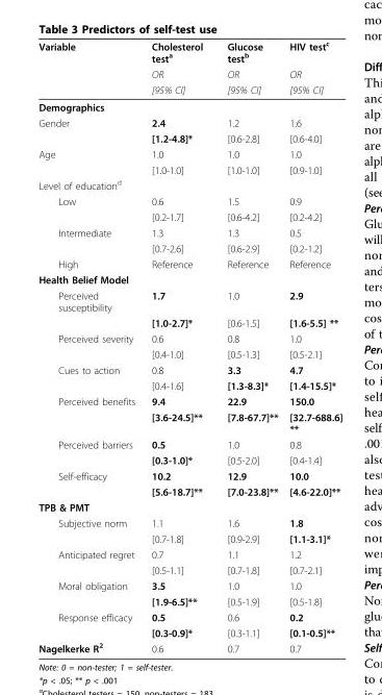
<table><thead><tr><td rowspan="3">Variable</td><td rowspan="3">Cholesterol test<sup>a</sup> OR [95% CI]</td><td rowspan="3">Glucose test<sup>b</sup> OR [95% CI]</td><td rowspan="3">HIV test<sup>c</sup> OR [95% CI]</td></tr><tr></tr><tr></tr></thead><tbody><tr><td colspan="4">Demographics</td></tr><tr><td rowspan="2">Gender</td><td>2.4</td><td>1.2</td><td>1.6</td></tr><tr><td>[1.2-4.8]*</td><td>[0.6-2.8]</td><td>[0.6-4.0]</td></tr><tr><td rowspan="2">Age</td><td>1.0</td><td>1.0</td><td>1.0</td></tr><tr><td>[1.0-1.0]</td><td>[1.0-1.0]</td><td>[0.9-1.0]</td></tr><tr><td colspan="4">Level of education<sup>d</sup></td></tr><tr><td rowspan="2">Low</td><td>0.6</td><td>1.5</td><td>0.9</td></tr><tr><td>[0.2-1.7]</td><td>[0.6-4.2]</td><td>[0.2-4.2]</td></tr><tr><td rowspan="2">Intermediate</td><td>1.3</td><td>1.3</td><td>0.5</td></tr><tr><td>[0.7-2.6]</td><td>[0.6-2.9]</td><td>[0.2-1.2]</td></tr><tr><td>High</td><td>Reference</td><td>Reference</td><td>Reference</td></tr><tr><td colspan="4">Health Belief Model</td></tr><tr><td rowspan="2">Perceived susceptibility</td><td>1.7</td><td>1.0</td><td>2.9</td></tr><tr><td>[1.0-2.7]*</td><td>[0.6-1.5]</td><td>[1.6-5.5] **</td></tr><tr><td rowspan="2">Perceived severity</td><td>0.6</td><td>0.8</td><td>1.0</td></tr><tr><td>[0.4-1.0]</td><td>[0.5-1.3]</td><td>[0.5-2.1]</td></tr><tr><td rowspan="2">Cues to action</td><td>0.8</td><td>3.3</td><td>4.7</td></tr><tr><td>[0.4-1.6]</td><td>[1.3-8.3]*</td><td>[1.4-15.5]*</td></tr><tr><td rowspan="2">Perceived benefits</td><td>9.4</td><td>22.9</td><td>150.0</td></tr><tr><td>[3.6-24.5]**</td><td>[7.8-67.7]**</td><td>[32.7-688.6] **</td></tr><tr><td rowspan="2">Perceived barriers</td><td>0.5</td><td>1.0</td><td>0.8</td></tr><tr><td>[0.3-1.0]*</td><td>[0.5-2.0]</td><td>[0.4-1.4]</td></tr><tr><td rowspan="2">Self-efficacy</td><td>10.2</td><td>12.9</td><td>10.0</td></tr><tr><td>[5.6-18.7]**</td><td>[7.0-23.8]**</td><td>[4.6-22.0]**</td></tr><tr><td colspan="4">TPB &amp; PMT</td></tr><tr><td rowspan="2">Subjective norm</td><td>1.1</td><td>1.6</td><td>1.8</td></tr><tr><td>[0.7-1.8]</td><td>[0.9-2.9]</td><td>[1.1-3.1]*</td></tr><tr><td rowspan="2">Anticipated regret</td><td>0.7</td><td>1.1</td><td>1.2</td></tr><tr><td>[0.5-1.1]</td><td>[0.7-1.8]</td><td>[0.7-2.1]</td></tr><tr><td rowspan="2">Moral obligation</td><td>3.5</td><td>1.0</td><td>1.0</td></tr><tr><td>[1.9-6.5]**</td><td>[0.5-1.9]</td><td>[0.5-1.8]</td></tr><tr><td rowspan="2">Response efficacy</td><td>0.5</td><td>0.6</td><td>0.2</td></tr><tr><td>[0.3-0.9]*</td><td>[0.3-1.1]</td><td>[0.1-0.5]**</td></tr><tr><td>Nagelkerke R<sup>2</sup></td><td>0.6</td><td>0.7</td><td>0.7</td></tr></tbody></table>